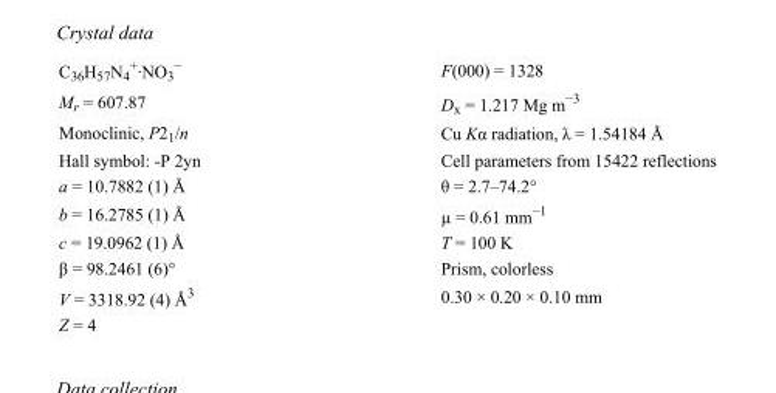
<table><tbody><tr><td>C<sub>36</sub>H<sub>57</sub>N<sub>4</sub> <sup>+</sup>·NO<sub>3</sub> <sup>−</sup></td><td>F(000) = 1328</td></tr><tr><td>M<sub>r</sub> = 607.87</td><td>D<sub>x</sub> = 1.217 Mg m<sup>−3</sup></td></tr><tr><td>Monoclinic, P2<sub>1</sub>/n</td><td>Cu Kα radiation, λ = 1.54184 Å</td></tr><tr><td>Hall symbol: -P 2yn</td><td>Cell parameters from 15422 reflections</td></tr><tr><td>a = 10.7882 (1) Å</td><td>θ = 2.7–74.2°</td></tr><tr><td>b = 16.2785 (1) Å</td><td>µ = 0.61 mm<sup>−1</sup></td></tr><tr><td>c = 19.0962 (1) Å</td><td>T = 100 K</td></tr><tr><td>β = 98.2461 (6)°</td><td>Prism, colorless</td></tr><tr><td>V = 3318.92 (4) Å<sup>3</sup></td><td>0.30 × 0.20 × 0.10 mm</td></tr><tr><td>Z = 4</td><td></td></tr></tbody></table>